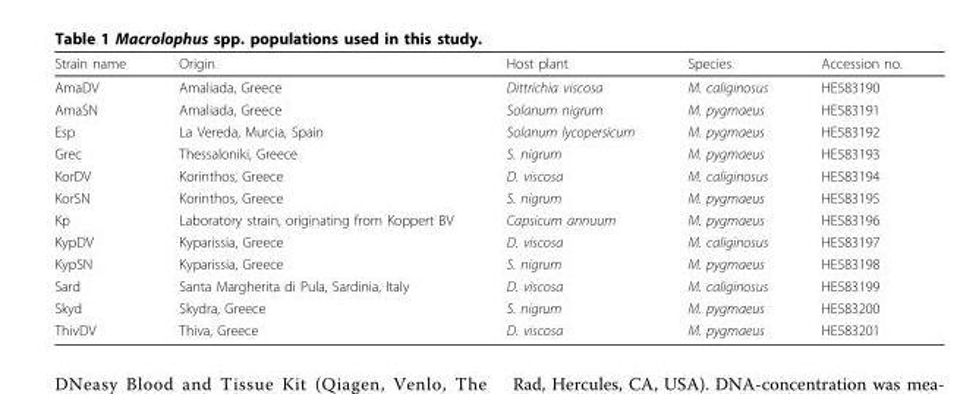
<table><thead><tr><td>Strain name</td><td>Origin</td><td>Host plant</td><td>Species</td><td>Accession no.</td></tr></thead><tbody><tr><td>AmaDV</td><td>Amaliada, Greece</td><td>Dittrichia viscosa</td><td>M. caliginosus</td><td>HE583190</td></tr><tr><td>AmaSN</td><td>Amaliada, Greece</td><td>Solanum nigrum</td><td>M. pygmaeus</td><td>HE583191</td></tr><tr><td>Esp</td><td>La Vereda, Murcia, Spain</td><td>Solanum lycopersicum</td><td>M. pygmaeus</td><td>HE583192</td></tr><tr><td>Grec</td><td>Thessaloniki, Greece</td><td>S. nigrum</td><td>M. pygmaeus</td><td>HE583193</td></tr><tr><td>KorDV</td><td>Korinthos, Greece</td><td>D. viscosa</td><td>M. caliginosus</td><td>HE583194</td></tr><tr><td>KorSN</td><td>Korinthos, Greece</td><td>S. nigrum</td><td>M. pygmaeus</td><td>HE583195</td></tr><tr><td>Kp</td><td>Laboratory strain, originating from Koppert BV</td><td>Capsicum annuum</td><td>M. pygmaeus</td><td>HE583196</td></tr><tr><td>KypDV</td><td>Kyparissia, Greece</td><td>D. viscosa</td><td>M. caliginosus</td><td>HE583197</td></tr><tr><td>KypSN</td><td>Kyparissia, Greece</td><td>S. nigrum</td><td>M. pygmaeus</td><td>HE583198</td></tr><tr><td>Sard</td><td>Santa Margherita di Pula, Sardinia, Italy</td><td>D. viscosa</td><td>M. caliginosus</td><td>HE583199</td></tr><tr><td>Skyd</td><td>Skydra, Greece</td><td>S. nigrum</td><td>M. pygmaeus</td><td>HE583200</td></tr><tr><td>ThivDV</td><td>Thiva, Greece</td><td>D. viscosa</td><td>M. pygmaeus</td><td>HE583201</td></tr></tbody></table>